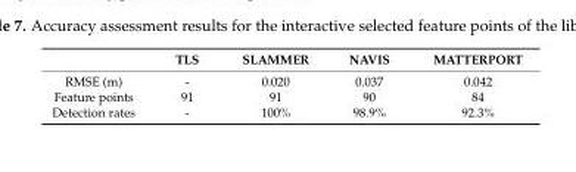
<table><thead><tr><td></td><td>TLS</td><td>SLAMMER</td><td>NAVIS</td><td>MATTERPORT</td></tr></thead><tbody><tr><td>RMSE (m)</td><td>-</td><td>0.020</td><td>0.037</td><td>0.042</td></tr><tr><td>Feature points</td><td>91</td><td>91</td><td>90</td><td>84</td></tr><tr><td>Detection rates</td><td>-</td><td>100%</td><td>98.9%</td><td>92.3%</td></tr></tbody></table>